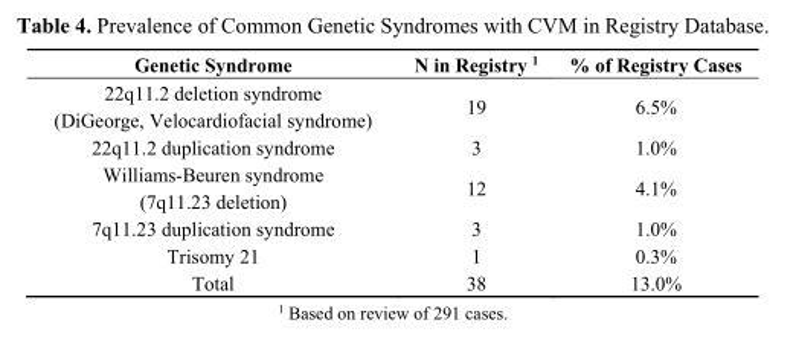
<table><thead><tr><td>Genetic Syndrome</td><td>N in Registry <sup>1</sup></td><td>% of Registry Cases</td></tr></thead><tbody><tr><td>22q11.2 deletion syndrome (DiGeorge, Velocardiofacial syndrome)</td><td>19</td><td>6.5%</td></tr><tr><td>22q11.2 duplication syndrome</td><td>3</td><td>1.0%</td></tr><tr><td>Williams-Beuren syndrome (7q11.23 deletion)</td><td>12</td><td>4.1%</td></tr><tr><td>7q11.23 duplication syndrome</td><td>3</td><td>1.0%</td></tr><tr><td>Trisomy 21</td><td>1</td><td>0.3%</td></tr><tr><td>Total</td><td>38</td><td>13.0%</td></tr></tbody></table>